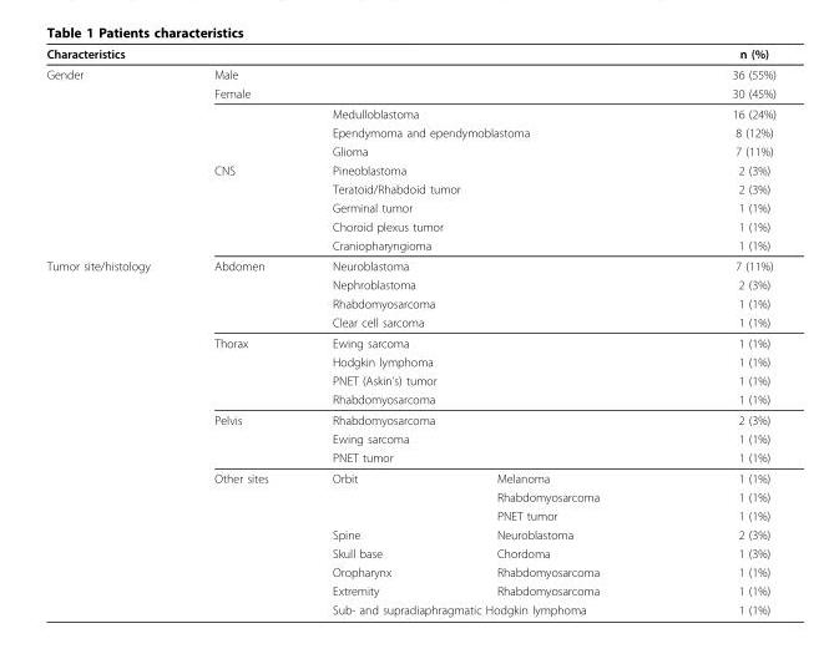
<table><thead><tr><td colspan="4">Characteristics</td><td>n (%)</td></tr></thead><tbody><tr><td rowspan="10">Gender</td><td colspan="3">Male</td><td>36 (55%)</td></tr><tr><td colspan="3">Female</td><td>30 (45%)</td></tr><tr><td></td><td colspan="2">Medulloblastoma</td><td>16 (24%)</td></tr><tr><td></td><td colspan="2">Ependymoma and ependymoblastoma</td><td>8 (12%)</td></tr><tr><td></td><td colspan="2">Glioma</td><td>7 (11%)</td></tr><tr><td>CNS</td><td colspan="2">Pineoblastoma</td><td>2 (3%)</td></tr><tr><td></td><td colspan="2">Teratoid/Rhabdoid tumor</td><td>2 (3%)</td></tr><tr><td></td><td colspan="2">Germinal tumor</td><td>1 (1%)</td></tr><tr><td></td><td colspan="2">Choroid plexus tumor</td><td>1 (1%)</td></tr><tr><td></td><td colspan="2">Craniopharyngioma</td><td>1 (1%)</td></tr><tr><td rowspan="19">Tumor site/histology</td><td>Abdomen</td><td colspan="2">Neuroblastoma</td><td>7 (11%)</td></tr><tr><td></td><td colspan="2">Nephroblastoma</td><td>2 (3%)</td></tr><tr><td></td><td colspan="2">Rhabdomyosarcoma</td><td>1 (1%)</td></tr><tr><td></td><td colspan="2">Clear cell sarcoma</td><td>1 (1%)</td></tr><tr><td>Thorax</td><td colspan="2">Ewing sarcoma</td><td>1 (1%)</td></tr><tr><td></td><td colspan="2">Hodgkin lymphoma</td><td>1 (1%)</td></tr><tr><td></td><td colspan="2">PNET (Askin’s) tumor</td><td>1 (1%)</td></tr><tr><td></td><td colspan="2">Rhabdomyosarcoma</td><td>1 (1%)</td></tr><tr><td>Pelvis</td><td colspan="2">Rhabdomyosarcoma</td><td>2 (3%)</td></tr><tr><td></td><td colspan="2">Ewing sarcoma</td><td>1 (1%)</td></tr><tr><td></td><td colspan="2">PNET tumor</td><td>1 (1%)</td></tr><tr><td>Other sites</td><td>Orbit</td><td>Melanoma</td><td>1 (1%)</td></tr><tr><td></td><td></td><td>Rhabdomyosarcoma</td><td>1 (1%)</td></tr><tr><td></td><td></td><td>PNET tumor</td><td>1 (1%)</td></tr><tr><td></td><td>Spine</td><td>Neuroblastoma</td><td>2 (3%)</td></tr><tr><td></td><td>Skull base</td><td>Chordoma</td><td>1 (3%)</td></tr><tr><td></td><td>Oropharynx</td><td>Rhabdomyosarcoma</td><td>1 (1%)</td></tr><tr><td></td><td>Extremity</td><td>Rhabdomyosarcoma</td><td>1 (1%)</td></tr><tr><td></td><td colspan="2">Sub- and supradiaphragmatic Hodgkin lymphoma</td><td>1 (1%)</td></tr></tbody></table>